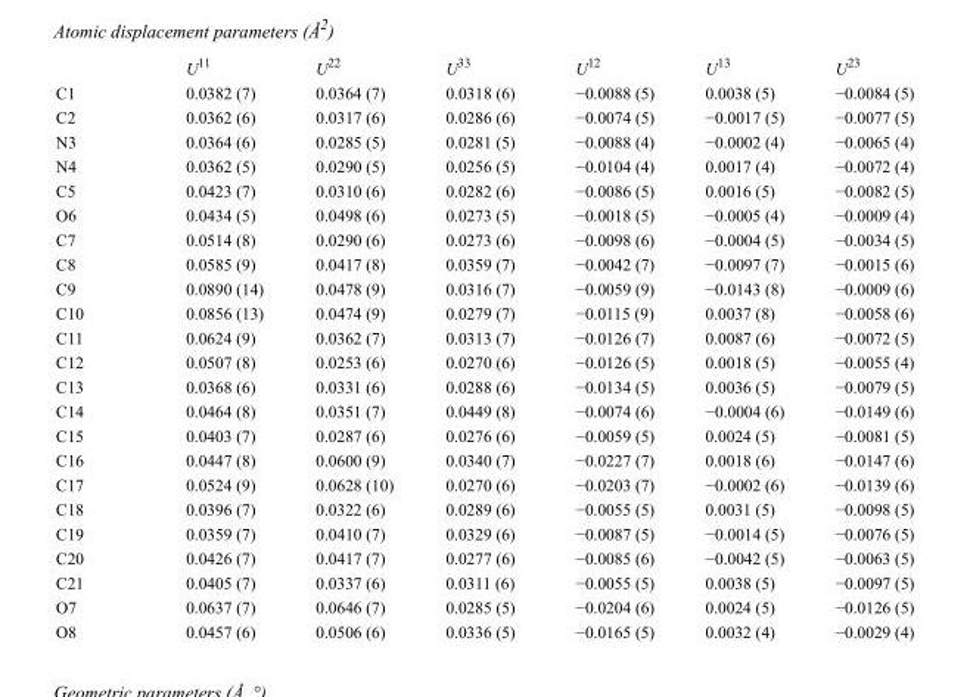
<table><thead><tr><td></td><td>U<sup>11</sup></td><td>U<sup>22</sup></td><td>U<sup>33</sup></td><td>U<sup>12</sup></td><td>U<sup>13</sup></td><td>U<sup>23</sup></td></tr></thead><tbody><tr><td>C1</td><td>0.0382 (7)</td><td>0.0364 (7)</td><td>0.0318 (6)</td><td>−0.0088 (5)</td><td>0.0038 (5)</td><td>−0.0084 (5)</td></tr><tr><td>C2</td><td>0.0362 (6)</td><td>0.0317 (6)</td><td>0.0286 (6)</td><td>−0.0074 (5)</td><td>−0.0017 (5)</td><td>−0.0077 (5)</td></tr><tr><td>N3</td><td>0.0364 (6)</td><td>0.0285 (5)</td><td>0.0281 (5)</td><td>−0.0088 (4)</td><td>−0.0002 (4)</td><td>−0.0065 (4)</td></tr><tr><td>N4</td><td>0.0362 (5)</td><td>0.0290 (5)</td><td>0.0256 (5)</td><td>−0.0104 (4)</td><td>0.0017 (4)</td><td>−0.0072 (4)</td></tr><tr><td>C5</td><td>0.0423 (7)</td><td>0.0310 (6)</td><td>0.0282 (6)</td><td>−0.0086 (5)</td><td>0.0016 (5)</td><td>−0.0082 (5)</td></tr><tr><td>O6</td><td>0.0434 (5)</td><td>0.0498 (6)</td><td>0.0273 (5)</td><td>−0.0018 (5)</td><td>−0.0005 (4)</td><td>−0.0009 (4)</td></tr><tr><td>C7</td><td>0.0514 (8)</td><td>0.0290 (6)</td><td>0.0273 (6)</td><td>−0.0098 (6)</td><td>−0.0004 (5)</td><td>−0.0034 (5)</td></tr><tr><td>C8</td><td>0.0585 (9)</td><td>0.0417 (8)</td><td>0.0359 (7)</td><td>−0.0042 (7)</td><td>−0.0097 (7)</td><td>−0.0015 (6)</td></tr><tr><td>C9</td><td>0.0890 (14)</td><td>0.0478 (9)</td><td>0.0316 (7)</td><td>−0.0059 (9)</td><td>−0.0143 (8)</td><td>−0.0009 (6)</td></tr><tr><td>C10</td><td>0.0856 (13)</td><td>0.0474 (9)</td><td>0.0279 (7)</td><td>−0.0115 (9)</td><td>0.0037 (8)</td><td>−0.0058 (6)</td></tr><tr><td>C11</td><td>0.0624 (9)</td><td>0.0362 (7)</td><td>0.0313 (7)</td><td>−0.0126 (7)</td><td>0.0087 (6)</td><td>−0.0072 (5)</td></tr><tr><td>C12</td><td>0.0507 (8)</td><td>0.0253 (6)</td><td>0.0270 (6)</td><td>−0.0126 (5)</td><td>0.0018 (5)</td><td>−0.0055 (4)</td></tr><tr><td>C13</td><td>0.0368 (6)</td><td>0.0331 (6)</td><td>0.0288 (6)</td><td>−0.0134 (5)</td><td>0.0036 (5)</td><td>−0.0079 (5)</td></tr><tr><td>C14</td><td>0.0464 (8)</td><td>0.0351 (7)</td><td>0.0449 (8)</td><td>−0.0074 (6)</td><td>−0.0004 (6)</td><td>−0.0149 (6)</td></tr><tr><td>C15</td><td>0.0403 (7)</td><td>0.0287 (6)</td><td>0.0276 (6)</td><td>−0.0059 (5)</td><td>0.0024 (5)</td><td>−0.0081 (5)</td></tr><tr><td>C16</td><td>0.0447 (8)</td><td>0.0600 (9)</td><td>0.0340 (7)</td><td>−0.0227 (7)</td><td>0.0018 (6)</td><td>−0.0147 (6)</td></tr><tr><td>C17</td><td>0.0524 (9)</td><td>0.0628 (10)</td><td>0.0270 (6)</td><td>−0.0203 (7)</td><td>−0.0002 (6)</td><td>−0.0139 (6)</td></tr><tr><td>C18</td><td>0.0396 (7)</td><td>0.0322 (6)</td><td>0.0289 (6)</td><td>−0.0055 (5)</td><td>0.0031 (5)</td><td>−0.0098 (5)</td></tr><tr><td>C19</td><td>0.0359 (7)</td><td>0.0410 (7)</td><td>0.0329 (6)</td><td>−0.0087 (5)</td><td>−0.0014 (5)</td><td>−0.0076 (5)</td></tr><tr><td>C20</td><td>0.0426 (7)</td><td>0.0417 (7)</td><td>0.0277 (6)</td><td>−0.0085 (6)</td><td>−0.0042 (5)</td><td>−0.0063 (5)</td></tr><tr><td>C21</td><td>0.0405 (7)</td><td>0.0337 (6)</td><td>0.0311 (6)</td><td>−0.0055 (5)</td><td>0.0038 (5)</td><td>−0.0097 (5)</td></tr><tr><td>O7</td><td>0.0637 (7)</td><td>0.0646 (7)</td><td>0.0285 (5)</td><td>−0.0204 (6)</td><td>0.0024 (5)</td><td>−0.0126 (5)</td></tr><tr><td>O8</td><td>0.0457 (6)</td><td>0.0506 (6)</td><td>0.0336 (5)</td><td>−0.0165 (5)</td><td>0.0032 (4)</td><td>−0.0029 (4)</td></tr></tbody></table>